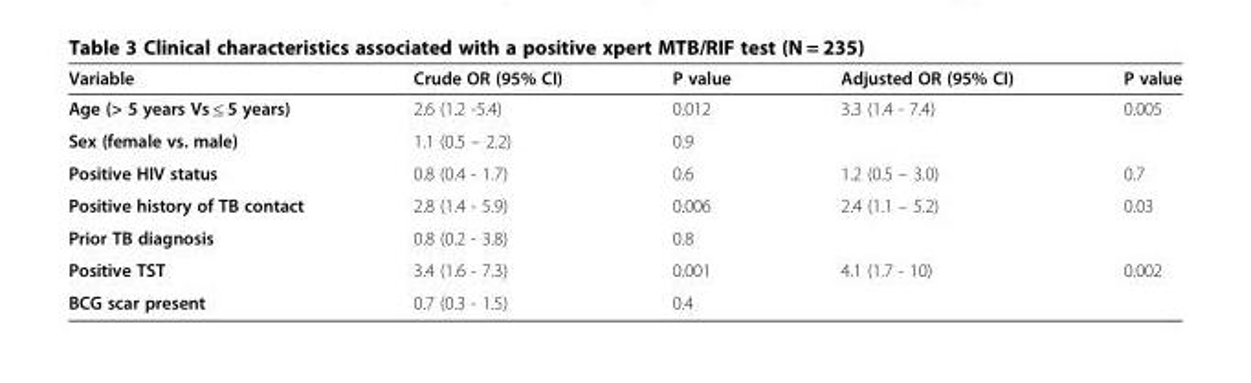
<table><thead><tr><td>Variable</td><td>Crude OR (95% CI)</td><td>P value</td><td>Adjusted OR (95% CI)</td><td>P value</td></tr></thead><tbody><tr><td>Age (&gt; 5 years Vs ≤ 5 years)</td><td>2.6 (1.2 -5.4)</td><td>0.012</td><td>3.3 (1.4 - 7.4)</td><td>0.005</td></tr><tr><td>Sex (female vs. male)</td><td>1.1 (0.5 – 2.2)</td><td>0.9</td><td></td><td></td></tr><tr><td>Positive HIV status</td><td>0.8 (0.4 - 1.7)</td><td>0.6</td><td>1.2 (0.5 – 3.0)</td><td>0.7</td></tr><tr><td>Positive history of TB contact</td><td>2.8 (1.4 - 5.9)</td><td>0.006</td><td>2.4 (1.1 – 5.2)</td><td>0.03</td></tr><tr><td>Prior TB diagnosis</td><td>0.8 (0.2 - 3.8)</td><td>0.8</td><td></td><td></td></tr><tr><td>Positive TST</td><td>3.4 (1.6 - 7.3)</td><td>0.001</td><td>4.1 (1.7 - 10)</td><td>0.002</td></tr><tr><td>BCG scar present</td><td>0.7 (0.3 - 1.5)</td><td>0.4</td><td></td><td></td></tr></tbody></table>